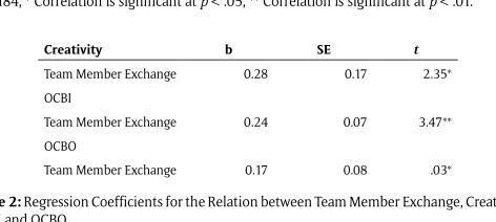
<table><thead><tr><td>Creativity</td><td>b</td><td>SE</td><td>t</td></tr></thead><tbody><tr><td>Team Member Exchange</td><td>0.28</td><td>0.17</td><td>2.35*</td></tr><tr><td colspan="4">OCBI</td></tr><tr><td>Team Member Exchange</td><td>0.24</td><td>0.07</td><td>3.47**</td></tr><tr><td colspan="4">OCBO</td></tr><tr><td>Team Member Exchange</td><td>0.17</td><td>0.08</td><td>.03*</td></tr></tbody></table>